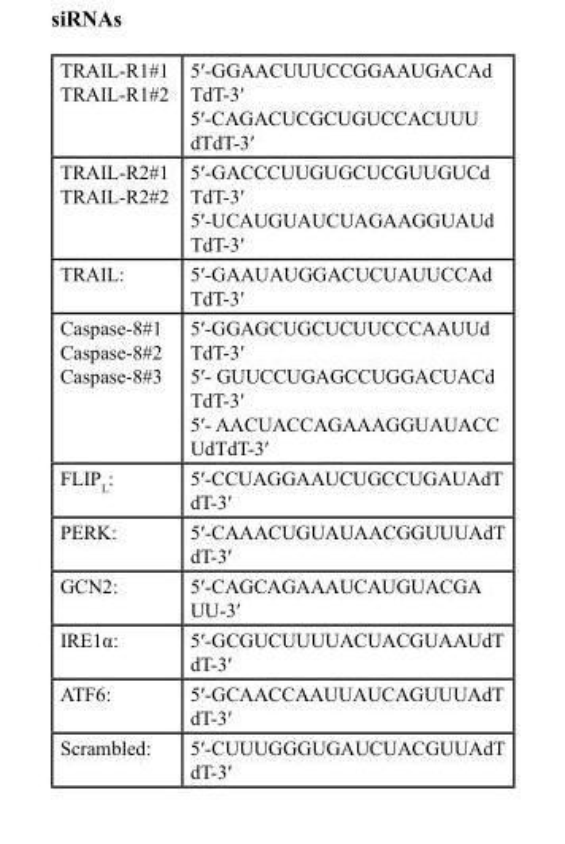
<table><tbody><tr><td>TRAIL-R1#1 TRAIL-R1#2</td><td>5′-GGAACUUUCCGGAAUGACAd TdT-3′ 5′-CAGACUCGCUGUCCACUUU dTdT-3′</td></tr><tr><td>TRAIL-R2#1 TRAIL-R2#2</td><td>5′-GACCCUUGUGCUCGUUGUCd TdT-3′ 5′-UCAUGUAUCUAGAAGGUAUd TdT-3′</td></tr><tr><td>TRAIL:</td><td>5′-GAAUAUGGACUCUAUUCCAd TdT-3′</td></tr><tr><td>Caspase-8#1 Caspase-8#2 Caspase-8#3</td><td>5′-GGAGCUGCUCUUCCCAAUUd TdT-3′ 5′- GUUCCUGAGCCUGGACUACd TdT-3′ 5′- AACUACCAGAAAGGUAUACC UdTdT-3′</td></tr><tr><td>FLIP<sub>L</sub>:</td><td>5′-CCUAGGAAUCUGCCUGAUAdT dT-3′</td></tr><tr><td>PERK:</td><td>5′-CAAACUGUAUAACGGUUUAdT dT-3′</td></tr><tr><td>GCN2:</td><td>5′-CAGCAGAAAUCAUGUACGA UU-3′</td></tr><tr><td>IRE1α:</td><td>5′-GCGUCUUUUACUACGUAAUdT dT-3′</td></tr><tr><td>ATF6:</td><td>5′-GCAACCAAUUAUCAGUUUAdT dT-3′</td></tr><tr><td>Scrambled:</td><td>5′-CUUUGGGUGAUCUACGUUAdT dT-3′</td></tr></tbody></table>